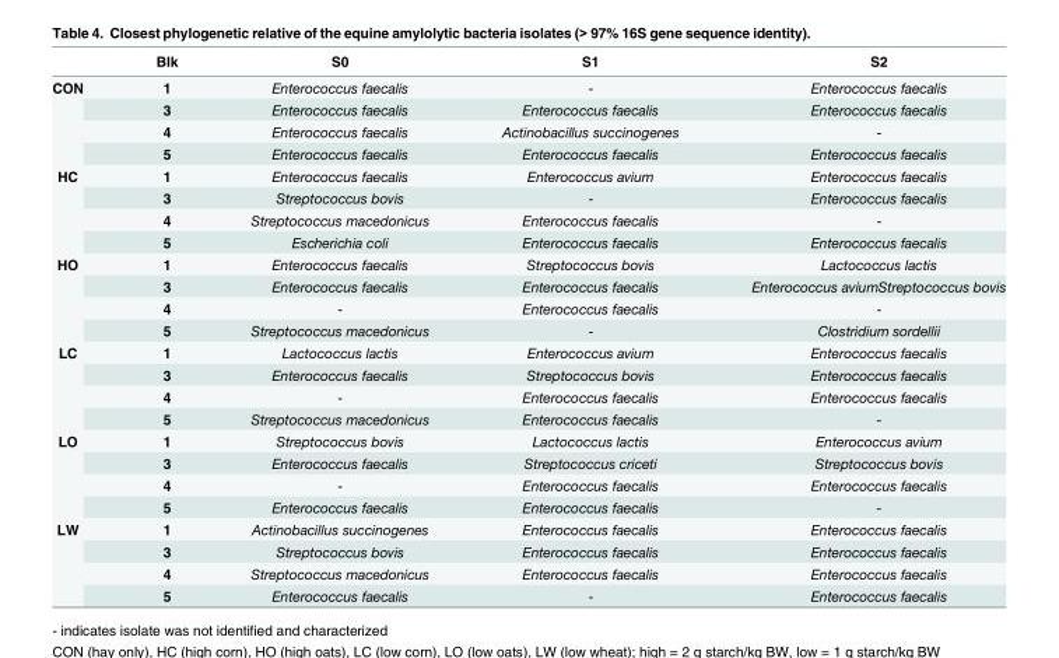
<table><thead><tr><td></td><td>Blk</td><td>S0</td><td>S1</td><td>S2</td></tr></thead><tbody><tr><td rowspan="4">CON</td><td>1</td><td>Enterococcus faecalis</td><td>-</td><td>Enterococcus faecalis</td></tr><tr><td>3</td><td>Enterococcus faecalis</td><td>Enterococcus faecalis</td><td>Enterococcus faecalis</td></tr><tr><td>4</td><td>Enterococcus faecalis</td><td>Actinobacillus succinogenes</td><td>-</td></tr><tr><td>5</td><td>Enterococcus faecalis</td><td>Enterococcus faecalis</td><td>Enterococcus faecalis</td></tr><tr><td rowspan="4">HC</td><td>1</td><td>Enterococcus faecalis</td><td>Enterococcus avium</td><td>Enterococcus faecalis</td></tr><tr><td>3</td><td>Streptococcus bovis</td><td>-</td><td>Enterococcus faecalis</td></tr><tr><td>4</td><td>Streptococcus macedonicus</td><td>Enterococcus faecalis</td><td>-</td></tr><tr><td>5</td><td>Escherichia coli</td><td>Enterococcus faecalis</td><td>Enterococcus faecalis</td></tr><tr><td rowspan="4">HO</td><td>1</td><td>Enterococcus faecalis</td><td>Streptococcus bovis</td><td>Lactococcus lactis</td></tr><tr><td>3</td><td>Enterococcus faecalis</td><td>Enterococcus faecalis</td><td>Enterococcus aviumStreptococcus bovis</td></tr><tr><td>4</td><td>-</td><td>Enterococcus faecalis</td><td>-</td></tr><tr><td>5</td><td>Streptococcus macedonicus</td><td>-</td><td>Clostridium sordellii</td></tr><tr><td rowspan="4">LC</td><td>1</td><td>Lactococcus lactis</td><td>Enterococcus avium</td><td>Enterococcus faecalis</td></tr><tr><td>3</td><td>Enterococcus faecalis</td><td>Streptococcus bovis</td><td>Enterococcus faecalis</td></tr><tr><td>4</td><td>-</td><td>Enterococcus faecalis</td><td>Enterococcus faecalis</td></tr><tr><td>5</td><td>Streptococcus macedonicus</td><td>Enterococcus faecalis</td><td>-</td></tr><tr><td rowspan="4">LO</td><td>1</td><td>Streptococcus bovis</td><td>Lactococcus lactis</td><td>Enterococcus avium</td></tr><tr><td>3</td><td>Enterococcus faecalis</td><td>Streptococcus criceti</td><td>Streptococcus bovis</td></tr><tr><td>4</td><td>-</td><td>Enterococcus faecalis</td><td>Enterococcus faecalis</td></tr><tr><td>5</td><td>Enterococcus faecalis</td><td>Enterococcus faecalis</td><td>-</td></tr><tr><td rowspan="4">LW</td><td>1</td><td>Actinobacillus succinogenes</td><td>Enterococcus faecalis</td><td>Enterococcus faecalis</td></tr><tr><td>3</td><td>Streptococcus bovis</td><td>Enterococcus faecalis</td><td>Enterococcus faecalis</td></tr><tr><td>4</td><td>Streptococcus macedonicus</td><td>Enterococcus faecalis</td><td>Enterococcus faecalis</td></tr><tr><td>5</td><td>Enterococcus faecalis</td><td>-</td><td>Enterococcus faecalis</td></tr></tbody></table>